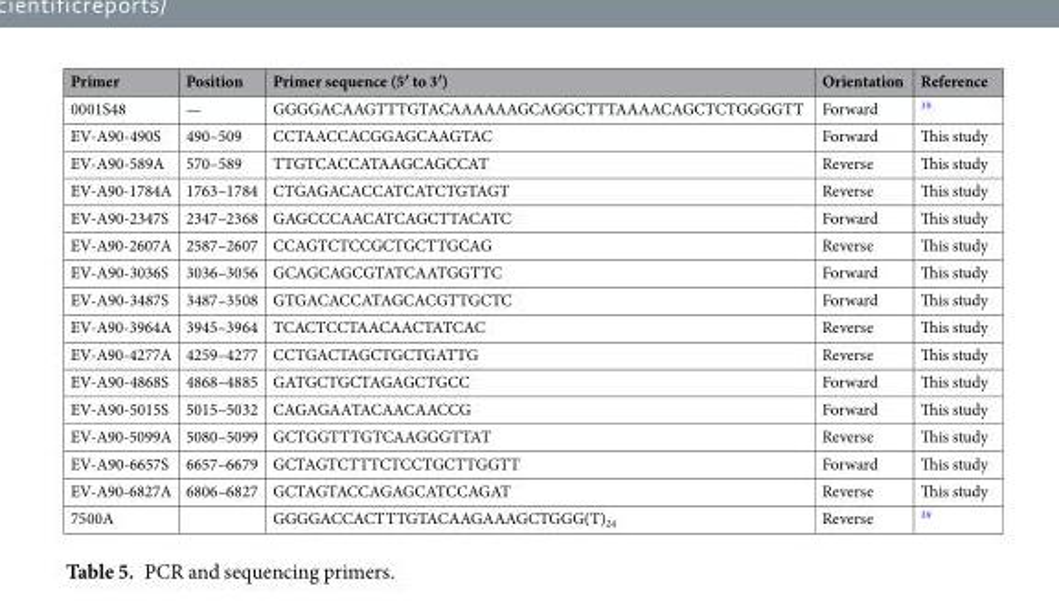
<table><thead><tr><td>Primer</td><td>Position</td><td>Primer sequence (5′ to 3′)</td><td>Orientation</td><td>Reference</td></tr></thead><tbody><tr><td>0001S48</td><td>—</td><td>GGGGACAAGTTTGTACAAAAAAGCAGGCTTTAAAACAGCTCTGGGGTT</td><td>Forward</td><td><sup>39</sup></td></tr><tr><td>EV-A90-490S</td><td>490–509</td><td>CCTAACCACGGAGCAAGTAC</td><td>Forward</td><td>This study</td></tr><tr><td>EV-A90-589A</td><td>570–589</td><td>TTGTCACCATAAGCAGCCAT</td><td>Reverse</td><td>This study</td></tr><tr><td>EV-A90-1784A</td><td>1763–1784</td><td>CTGAGACACCATCATCTGTAGT</td><td>Reverse</td><td>This study</td></tr><tr><td>EV-A90-2347S</td><td>2347–2368</td><td>GAGCCCAACATCAGCTTACATC</td><td>Forward</td><td>This study</td></tr><tr><td>EV-A90-2607A</td><td>2587–2607</td><td>CCAGTCTCCGCTGCTTGCAG</td><td>Reverse</td><td>This study</td></tr><tr><td>EV-A90-3036S</td><td>3036–3056</td><td>GCAGCAGCGTATCAATGGTTC</td><td>Forward</td><td>This study</td></tr><tr><td>EV-A90-3487S</td><td>3487–3508</td><td>GTGACACCATAGCACGTTGCTC</td><td>Forward</td><td>This study</td></tr><tr><td>EV-A90-3964A</td><td>3945–3964</td><td>TCACTCCTAACAACTATCAC</td><td>Reverse</td><td>This study</td></tr><tr><td>EV-A90-4277A</td><td>4259–4277</td><td>CCTGACTAGCTGCTGATTG</td><td>Reverse</td><td>This study</td></tr><tr><td>EV-A90-4868S</td><td>4868–4885</td><td>GATGCTGCTAGAGCTGCC</td><td>Forward</td><td>This study</td></tr><tr><td>EV-A90-5015S</td><td>5015–5032</td><td>CAGAGAATACAACAACCG</td><td>Forward</td><td>This study</td></tr><tr><td>EV-A90-5099A</td><td>5080–5099</td><td>GCTGGTTTGTCAAGGGTTAT</td><td>Reverse</td><td>This study</td></tr><tr><td>EV-A90-6657S</td><td>6657–6679</td><td>GCTAGTCTTTCTCCTGCTTGGTT</td><td>Forward</td><td>This study</td></tr><tr><td>EV-A90-6827A</td><td>6806–6827</td><td>GCTAGTACCAGAGCATCCAGAT</td><td>Reverse</td><td>This study</td></tr><tr><td>7500A</td><td></td><td>GGGGACCACTTTGTACAAGAAAGCTGGG(T)<sub>24</sub></td><td>Reverse</td><td><sup>39</sup></td></tr></tbody></table>